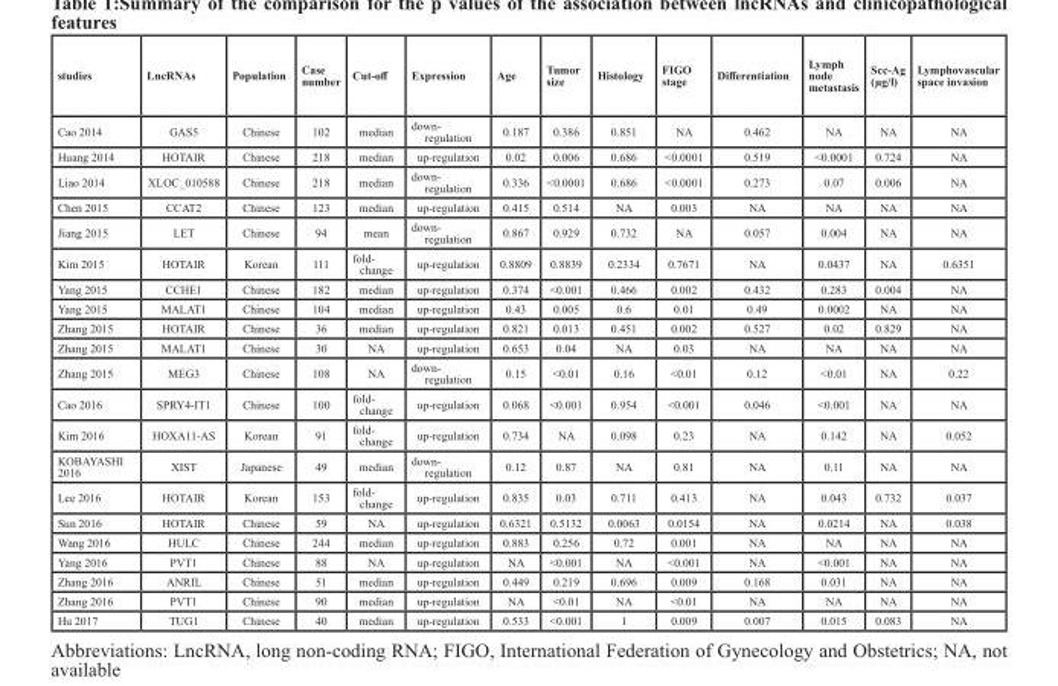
<table><thead><tr><td>studies</td><td>LncRNAs</td><td>Population</td><td>Case number</td><td>Cut-off</td><td>Expression</td><td>Age</td><td>Tumor size</td><td>Histology</td><td>FIGO stage</td><td>Differentiation</td><td>Lymph node metastasis</td><td>Scc-Ag (µg/l)</td><td>Lymphovascular space invasion</td></tr></thead><tbody><tr><td>Cao 2014</td><td>GAS5</td><td>Chinese</td><td>102</td><td>median</td><td>down- regulation</td><td>0.187</td><td>0.386</td><td>0.851</td><td>NA</td><td>0.462</td><td>NA</td><td>NA</td><td>NA</td></tr><tr><td>Huang 2014</td><td>HOTAIR</td><td>Chinese</td><td>218</td><td>median</td><td>up-regulation</td><td>0.02</td><td>0.006</td><td>0.686</td><td>&lt;0.0001</td><td>0.519</td><td>&lt;0.0001</td><td>0.724</td><td>NA</td></tr><tr><td>Liao 2014</td><td>XLOC_010588</td><td>Chinese</td><td>218</td><td>median</td><td>down- regulation</td><td>0.336</td><td>&lt;0.0001</td><td>0.686</td><td>&lt;0.0001</td><td>0.273</td><td>0.07</td><td>0.006</td><td>NA</td></tr><tr><td>Chen 2015</td><td>CCAT2</td><td>Chinese</td><td>123</td><td>median</td><td>up-regulation</td><td>0.415</td><td>0.514</td><td>NA</td><td>0.003</td><td>NA</td><td>NA</td><td>NA</td><td>NA</td></tr><tr><td>Jiang 2015</td><td>LET</td><td>Chinese</td><td>94</td><td>mean</td><td>down- regulation</td><td>0.867</td><td>0.929</td><td>0.732</td><td>NA</td><td>0.057</td><td>0.004</td><td>NA</td><td>NA</td></tr><tr><td>Kim 2015</td><td>HOTAIR</td><td>Korean</td><td>111</td><td>fold- change</td><td>up-regulation</td><td>0.8809</td><td>0.8839</td><td>0.2334</td><td>0.7671</td><td>NA</td><td>0.0437</td><td>NA</td><td>0.6351</td></tr><tr><td>Yang 2015</td><td>CCHE1</td><td>Chinese</td><td>182</td><td>median</td><td>up-regulation</td><td>0.374</td><td>&lt;0.001</td><td>0.466</td><td>0.002</td><td>0.432</td><td>0.283</td><td>0.004</td><td>NA</td></tr><tr><td>Yang 2015</td><td>MALAT1</td><td>Chinese</td><td>104</td><td>median</td><td>up-regulation</td><td>0.43</td><td>0.005</td><td>0.6</td><td>0.01</td><td>0.49</td><td>0.0002</td><td>NA</td><td>NA</td></tr><tr><td>Zhang 2015</td><td>HOTAIR</td><td>Chinese</td><td>36</td><td>median</td><td>up-regulation</td><td>0.821</td><td>0.013</td><td>0.451</td><td>0.002</td><td>0.527</td><td>0.02</td><td>0.829</td><td>NA</td></tr><tr><td>Zhang 2015</td><td>MALAT1</td><td>Chinese</td><td>30</td><td>NA</td><td>up-regulation</td><td>0.653</td><td>0.04</td><td>NA</td><td>0.03</td><td>NA</td><td>NA</td><td>NA</td><td>NA</td></tr><tr><td>Zhang 2015</td><td>MEG3</td><td>Chinese</td><td>108</td><td>NA</td><td>down- regulation</td><td>0.15</td><td>&lt;0.01</td><td>0.16</td><td>&lt;0.01</td><td>0.12</td><td>&lt;0.01</td><td>NA</td><td>0.22</td></tr><tr><td>Cao 2016</td><td>SPRY4-IT1</td><td>Chinese</td><td>100</td><td>fold- change</td><td>up-regulation</td><td>0.068</td><td>&lt;0.001</td><td>0.954</td><td>&lt;0.001</td><td>0.046</td><td>&lt;0.001</td><td>NA</td><td>NA</td></tr><tr><td>Kim 2016</td><td>HOXA11-AS</td><td>Korean</td><td>91</td><td>fold- change</td><td>up-regulation</td><td>0.734</td><td>NA</td><td>0.098</td><td>0.23</td><td>NA</td><td>0.142</td><td>NA</td><td>0.052</td></tr><tr><td>KOBAYASHI 2016</td><td>XIST</td><td>Japanese</td><td>49</td><td>median</td><td>down- regulation</td><td>0.12</td><td>0.87</td><td>NA</td><td>0.81</td><td>NA</td><td>0.11</td><td>NA</td><td>NA</td></tr><tr><td>Lee 2016</td><td>HOTAIR</td><td>Korean</td><td>153</td><td>fold- change</td><td>up-regulation</td><td>0.835</td><td>0.03</td><td>0.711</td><td>0.413</td><td>NA</td><td>0.043</td><td>0.732</td><td>0.037</td></tr><tr><td>Sun 2016</td><td>HOTAIR</td><td>Chinese</td><td>59</td><td>NA</td><td>up-regulation</td><td>0.6321</td><td>0.5132</td><td>0.0063</td><td>0.0154</td><td>NA</td><td>0.0214</td><td>NA</td><td>0.038</td></tr><tr><td>Wang 2016</td><td>HULC</td><td>Chinese</td><td>244</td><td>median</td><td>up-regulation</td><td>0.883</td><td>0.256</td><td>0.72</td><td>0.001</td><td>NA</td><td>NA</td><td>NA</td><td>NA</td></tr><tr><td>Yang 2016</td><td>PVT1</td><td>Chinese</td><td>88</td><td>NA</td><td>up-regulation</td><td>NA</td><td>&lt;0.001</td><td>NA</td><td>&lt;0.001</td><td>NA</td><td>&lt;0.001</td><td>NA</td><td>NA</td></tr><tr><td>Zhang 2016</td><td>ANRIL</td><td>Chinese</td><td>51</td><td>median</td><td>up-regulation</td><td>0.449</td><td>0.219</td><td>0.696</td><td>0.009</td><td>0.168</td><td>0.031</td><td>NA</td><td>NA</td></tr><tr><td>Zhang 2016</td><td>PVT1</td><td>Chinese</td><td>90</td><td>median</td><td>up-regulation</td><td>NA</td><td>&lt;0.01</td><td>NA</td><td>&lt;0.01</td><td>NA</td><td>NA</td><td>NA</td><td>NA</td></tr><tr><td>Hu 2017</td><td>TUG1</td><td>Chinese</td><td>40</td><td>median</td><td>up-regulation</td><td>0.533</td><td>&lt;0.001</td><td>1</td><td>0.009</td><td>0.007</td><td>0.015</td><td>0.083</td><td>NA</td></tr></tbody></table>